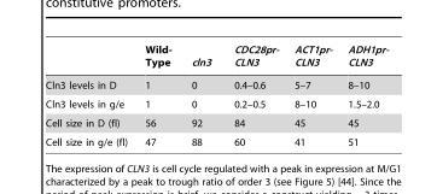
<table><thead><tr><td></td><td>Wild- Type</td><td>cln3</td><td>CDC28pr- CLN3</td><td>ACT1pr- CLN3</td><td>ADH1pr- CLN3</td></tr></thead><tbody><tr><td>Cln3 levels in D</td><td>1</td><td>0</td><td>0.4–0.6</td><td>5–7</td><td>8–10</td></tr><tr><td>Cln3 levels in g/e</td><td>1</td><td>0</td><td>0.2–0.5</td><td>8–10</td><td>1.5–2.0</td></tr><tr><td>Cell size in D (fl)</td><td>56</td><td>92</td><td>84</td><td>45</td><td>45</td></tr><tr><td>Cell size in g/e (fl)</td><td>47</td><td>88</td><td>60</td><td>41</td><td>51</td></tr></tbody></table>